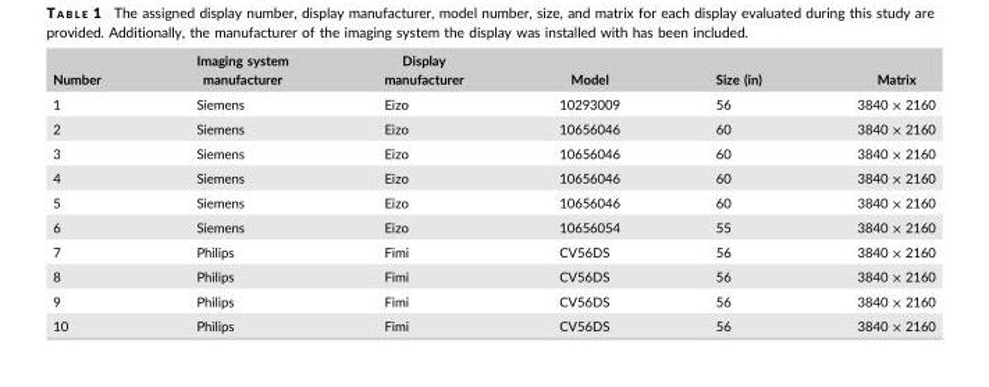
<table><thead><tr><td>Number</td><td>Imaging system manufacturer</td><td>Display manufacturer</td><td>Model</td><td>Size (in)</td><td>Matrix</td></tr></thead><tbody><tr><td>1</td><td>Siemens</td><td>Eizo</td><td>10293009</td><td>56</td><td>3840 × 2160</td></tr><tr><td>2</td><td>Siemens</td><td>Eizo</td><td>10656046</td><td>60</td><td>3840 × 2160</td></tr><tr><td>3</td><td>Siemens</td><td>Eizo</td><td>10656046</td><td>60</td><td>3840 × 2160</td></tr><tr><td>4</td><td>Siemens</td><td>Eizo</td><td>10656046</td><td>60</td><td>3840 × 2160</td></tr><tr><td>5</td><td>Siemens</td><td>Eizo</td><td>10656046</td><td>60</td><td>3840 × 2160</td></tr><tr><td>6</td><td>Siemens</td><td>Eizo</td><td>10656054</td><td>55</td><td>3840 × 2160</td></tr><tr><td>7</td><td>Philips</td><td>Fimi</td><td>CV56DS</td><td>56</td><td>3840 × 2160</td></tr><tr><td>8</td><td>Philips</td><td>Fimi</td><td>CV56DS</td><td>56</td><td>3840 × 2160</td></tr><tr><td>9</td><td>Philips</td><td>Fimi</td><td>CV56DS</td><td>56</td><td>3840 × 2160</td></tr><tr><td>10</td><td>Philips</td><td>Fimi</td><td>CV56DS</td><td>56</td><td>3840 × 2160</td></tr></tbody></table>